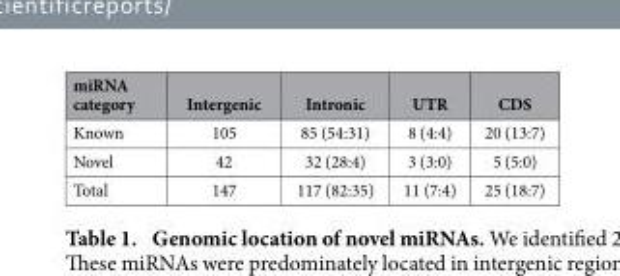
<table><thead><tr><td>miRNA category</td><td>Intergenic</td><td>Intronic</td><td>UTR</td><td>CDS</td></tr></thead><tbody><tr><td>Known</td><td>105</td><td>85 (54:31)</td><td>8 (4:4)</td><td>20 (13:7)</td></tr><tr><td>Novel</td><td>42</td><td>32 (28:4)</td><td>3 (3:0)</td><td>5 (5:0)</td></tr><tr><td>Total</td><td>147</td><td>117 (82:35)</td><td>11 (7:4)</td><td>25 (18:7)</td></tr></tbody></table>